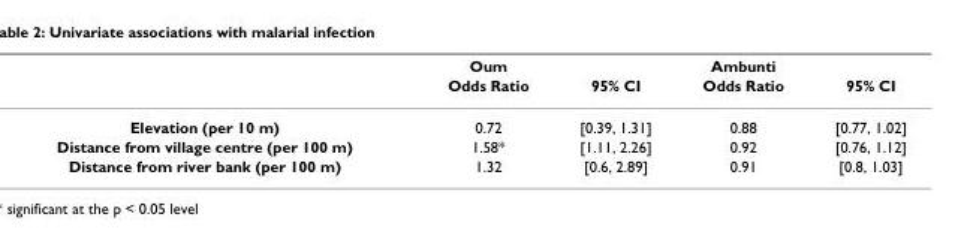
<table><thead><tr><td rowspan="2"></td><td rowspan="2">Oum Odds Ratio</td><td rowspan="2">95% CI</td><td rowspan="2">Ambunti Odds Ratio</td><td rowspan="2">95% CI</td></tr><tr></tr></thead><tbody><tr><td>Elevation (per 10 m)</td><td>0.72</td><td>[0.39, 1.31]</td><td>0.88</td><td>[0.77, 1.02]</td></tr><tr><td>Distance from village centre (per 100 m)</td><td>1.58*</td><td>[1.11, 2.26]</td><td>0.92</td><td>[0.76, 1.12]</td></tr><tr><td>Distance from river bank (per 100 m)</td><td>1.32</td><td>[0.6, 2.89]</td><td>0.91</td><td>[0.8, 1.03]</td></tr></tbody></table>